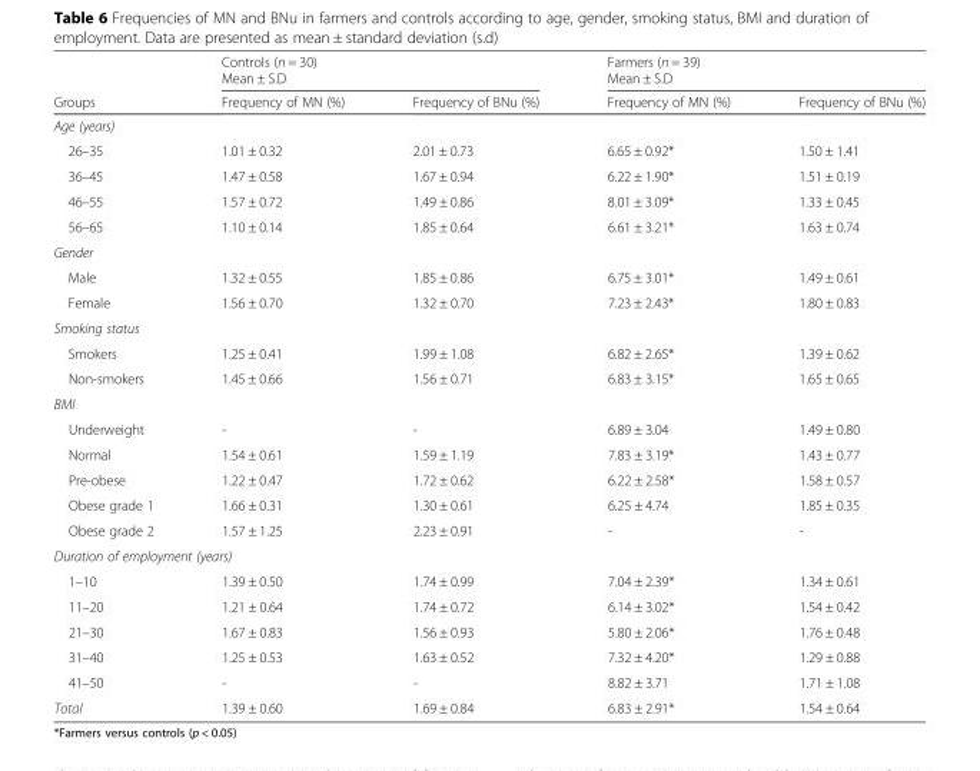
<table><thead><tr><td rowspan="3">Groups</td><td rowspan="2" colspan="2">Controls (n = 30) Mean ± S.D</td><td rowspan="2" colspan="2">Farmers (n = 39) Mean ± S.D</td></tr><tr></tr><tr><td>Frequency of MN (%)</td><td>Frequency of BNu (%)</td><td>Frequency of MN (%)</td><td>Frequency of BNu (%)</td></tr></thead><tbody><tr><td colspan="5">Age (years)</td></tr><tr><td>26–35</td><td>1.01 ± 0.32</td><td>2.01 ± 0.73</td><td>6.65 ± 0.92*</td><td>1.50 ± 1.41</td></tr><tr><td>36–45</td><td>1.47 ± 0.58</td><td>1.67 ± 0.94</td><td>6.22 ± 1.90*</td><td>1.51 ± 0.19</td></tr><tr><td>46–55</td><td>1.57 ± 0.72</td><td>1.49 ± 0.86</td><td>8.01 ± 3.09*</td><td>1.33 ± 0.45</td></tr><tr><td>56–65</td><td>1.10 ± 0.14</td><td>1.85 ± 0.64</td><td>6.61 ± 3.21*</td><td>1.63 ± 0.74</td></tr><tr><td colspan="5">Gender</td></tr><tr><td>Male</td><td>1.32 ± 0.55</td><td>1.85 ± 0.86</td><td>6.75 ± 3.01*</td><td>1.49 ± 0.61</td></tr><tr><td>Female</td><td>1.56 ± 0.70</td><td>1.32 ± 0.70</td><td>7.23 ± 2.43*</td><td>1.80 ± 0.83</td></tr><tr><td colspan="5">Smoking status</td></tr><tr><td>Smokers</td><td>1.25 ± 0.41</td><td>1.99 ± 1.08</td><td>6.82 ± 2.65*</td><td>1.39 ± 0.62</td></tr><tr><td>Non-smokers</td><td>1.45 ± 0.66</td><td>1.56 ± 0.71</td><td>6.83 ± 3.15*</td><td>1.65 ± 0.65</td></tr><tr><td colspan="5">BMI</td></tr><tr><td>Underweight</td><td>-</td><td>-</td><td>6.89 ± 3.04</td><td>1.49 ± 0.80</td></tr><tr><td>Normal</td><td>1.54 ± 0.61</td><td>1.59 ± 1.19</td><td>7.83 ± 3.19*</td><td>1.43 ± 0.77</td></tr><tr><td>Pre-obese</td><td>1.22 ± 0.47</td><td>1.72 ± 0.62</td><td>6.22 ± 2.58*</td><td>1.58 ± 0.57</td></tr><tr><td>Obese grade 1</td><td>1.66 ± 0.31</td><td>1.30 ± 0.61</td><td>6.25 ± 4.74</td><td>1.85 ± 0.35</td></tr><tr><td>Obese grade 2</td><td>1.57 ± 1.25</td><td>2.23 ± 0.91</td><td>-</td><td>-</td></tr><tr><td colspan="5">Duration of employment (years)</td></tr><tr><td>1–10</td><td>1.39 ± 0.50</td><td>1.74 ± 0.99</td><td>7.04 ± 2.39*</td><td>1.34 ± 0.61</td></tr><tr><td>11–20</td><td>1.21 ± 0.64</td><td>1.74 ± 0.72</td><td>6.14 ± 3.02*</td><td>1.54 ± 0.42</td></tr><tr><td>21–30</td><td>1.67 ± 0.83</td><td>1.56 ± 0.93</td><td>5.80 ± 2.06*</td><td>1.76 ± 0.48</td></tr><tr><td>31–40</td><td>1.25 ± 0.53</td><td>1.63 ± 0.52</td><td>7.32 ± 4.20*</td><td>1.29 ± 0.88</td></tr><tr><td>41–50</td><td>-</td><td>-</td><td>8.82 ± 3.71</td><td>1.71 ± 1.08</td></tr><tr><td>Total</td><td>1.39 ± 0.60</td><td>1.69 ± 0.84</td><td>6.83 ± 2.91*</td><td>1.54 ± 0.64</td></tr></tbody></table>